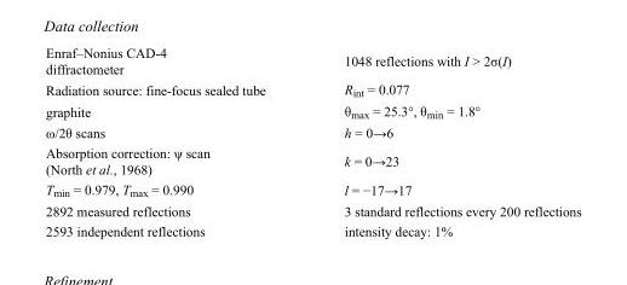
<table><tbody><tr><td>Enraf–Nonius CAD-4 diffractometer</td><td>1048 reflections with I &gt; 2σ(I)</td></tr><tr><td>Radiation source: fine-focus sealed tube</td><td>R<sub>int</sub> = 0.077</td></tr><tr><td>graphite</td><td>θ<sub>max</sub> = 25.3°, θ<sub>min</sub> = 1.8°</td></tr><tr><td>ω/2θ scans</td><td>h = 0→6</td></tr><tr><td>Absorption correction: ψ scan (North et al., 1968)</td><td>k = 0→23</td></tr><tr><td>T<sub>min</sub> = 0.979, T<sub>max</sub> = 0.990</td><td>l = −17→17</td></tr><tr><td>2892 measured reflections</td><td>3 standard reflections every 200 reflections</td></tr><tr><td>2593 independent reflections</td><td>intensity decay: 1%</td></tr></tbody></table>